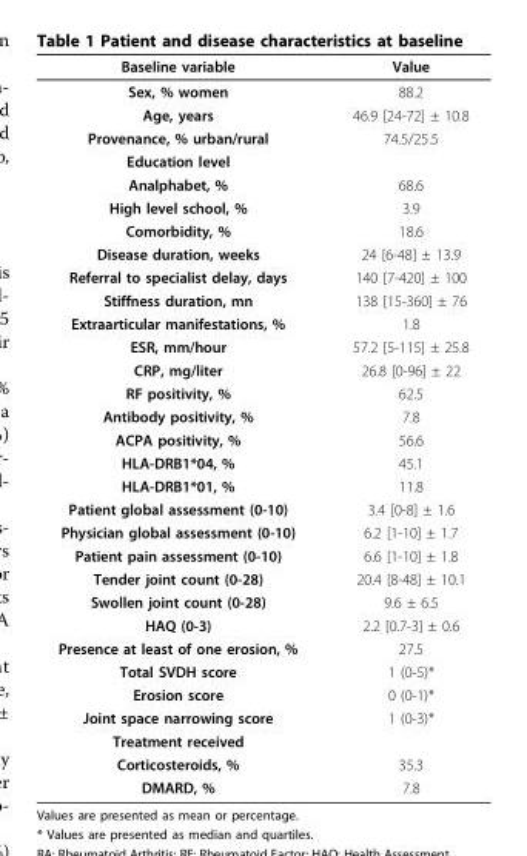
<table><thead><tr><td>Baseline variable</td><td>Value</td></tr></thead><tbody><tr><td>Sex, % women</td><td>88.2</td></tr><tr><td>Age, years</td><td>46.9 [24-72] ± 10.8</td></tr><tr><td>Provenance, % urban/rural</td><td>74.5/25.5</td></tr><tr><td colspan="2">Education level</td></tr><tr><td>Analphabet, %</td><td>68.6</td></tr><tr><td>High level school, %</td><td>3.9</td></tr><tr><td>Comorbidity, %</td><td>18.6</td></tr><tr><td>Disease duration, weeks</td><td>24 [6-48] ± 13.9</td></tr><tr><td>Referral to specialist delay, days</td><td>140 [7-420] ± 100</td></tr><tr><td>Stiffness duration, mn</td><td>138 [15-360] ± 76</td></tr><tr><td>Extraarticular manifestations, %</td><td>1.8</td></tr><tr><td>ESR, mm/hour</td><td>57.2 [5-115] ± 25.8</td></tr><tr><td>CRP, mg/liter</td><td>26.8 [0-96] ± 22</td></tr><tr><td>RF positivity, %</td><td>62.5</td></tr><tr><td>Antibody positivity, %</td><td>7.8</td></tr><tr><td>ACPA positivity, %</td><td>56.6</td></tr><tr><td>HLA-DRB1*04, %</td><td>45.1</td></tr><tr><td>HLA-DRB1*01, %</td><td>11.8</td></tr><tr><td>Patient global assessment (0-10)</td><td>3.4 [0-8] ± 1.6</td></tr><tr><td>Physician global assessment (0-10)</td><td>6.2 [1-10] ± 1.7</td></tr><tr><td>Patient pain assessment (0-10)</td><td>6.6 [1-10] ± 1.8</td></tr><tr><td>Tender joint count (0-28)</td><td>20.4 [8-48] ± 10.1</td></tr><tr><td>Swollen joint count (0-28)</td><td>9.6 ± 6.5</td></tr><tr><td>HAQ (0-3)</td><td>2.2 [0.7-3] ± 0.6</td></tr><tr><td>Presence at least of one erosion, %</td><td>27.5</td></tr><tr><td>Total SVDH score</td><td>1 (0-5)*</td></tr><tr><td>Erosion score</td><td>0 (0-1)*</td></tr><tr><td>Joint space narrowing score</td><td>1 (0-3)*</td></tr><tr><td colspan="2">Treatment received</td></tr><tr><td>Corticosteroids, %</td><td>35.3</td></tr><tr><td>DMARD, %</td><td>7.8</td></tr></tbody></table>